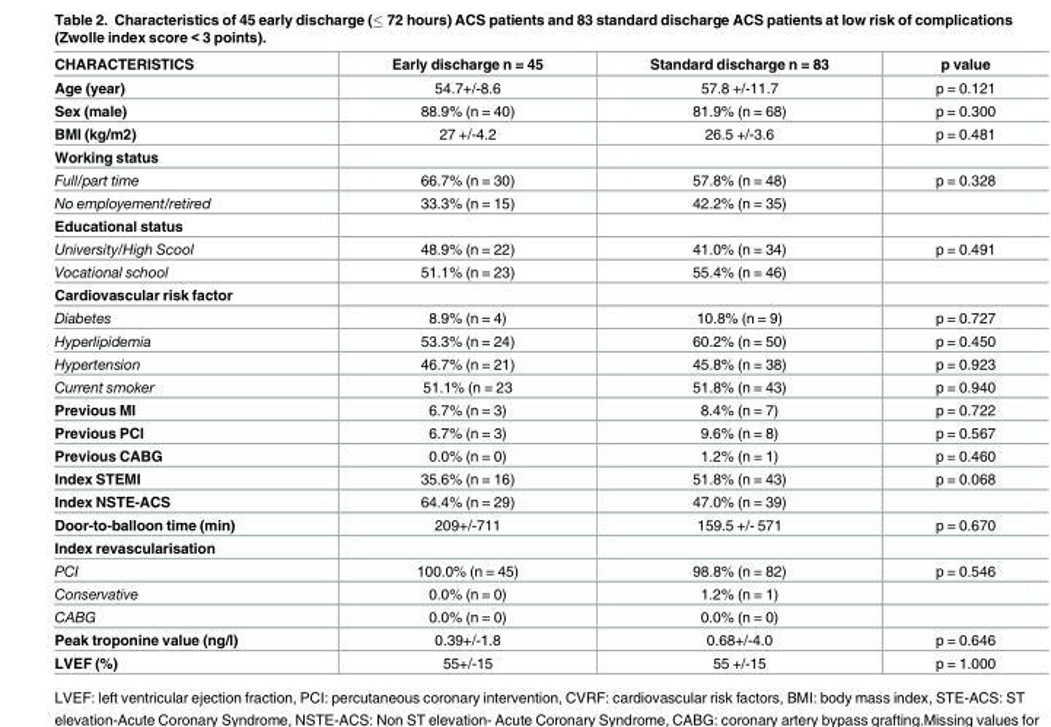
<table><thead><tr><td>CHARACTERISTICS</td><td>Early discharge n = 45</td><td>Standard discharge n = 83</td><td>p value</td></tr></thead><tbody><tr><td>Age (year)</td><td>54.7+/-8.6</td><td>57.8 +/-11.7</td><td>p = 0.121</td></tr><tr><td>Sex (male)</td><td>88.9% (n = 40)</td><td>81.9% (n = 68)</td><td>p = 0.300</td></tr><tr><td>BMI (kg/m2)</td><td>27 +/-4.2</td><td>26.5 +/-3.6</td><td>p = 0.481</td></tr><tr><td colspan="4">Working status</td></tr><tr><td>Full/part time</td><td>66.7% (n = 30)</td><td>57.8% (n = 48)</td><td>p = 0.328</td></tr><tr><td>No employement/retired</td><td>33.3% (n = 15)</td><td>42.2% (n = 35)</td><td></td></tr><tr><td colspan="4">Educational status</td></tr><tr><td>University/High Scool</td><td>48.9% (n = 22)</td><td>41.0% (n = 34)</td><td>p = 0.491</td></tr><tr><td>Vocational school</td><td>51.1% (n = 23)</td><td>55.4% (n = 46)</td><td></td></tr><tr><td colspan="4">Cardiovascular risk factor</td></tr><tr><td>Diabetes</td><td>8.9% (n = 4)</td><td>10.8% (n = 9)</td><td>p = 0.727</td></tr><tr><td>Hyperlipidemia</td><td>53.3% (n = 24)</td><td>60.2% (n = 50)</td><td>p = 0.450</td></tr><tr><td>Hypertension</td><td>46.7% (n = 21)</td><td>45.8% (n = 38)</td><td>p = 0.923</td></tr><tr><td>Current smoker</td><td>51.1% (n = 23</td><td>51.8% (n = 43)</td><td>p = 0.940</td></tr><tr><td>Previous MI</td><td>6.7% (n = 3)</td><td>8.4% (n = 7)</td><td>p = 0.722</td></tr><tr><td>Previous PCI</td><td>6.7% (n = 3)</td><td>9.6% (n = 8)</td><td>p = 0.567</td></tr><tr><td>Previous CABG</td><td>0.0% (n = 0)</td><td>1.2% (n = 1)</td><td>p = 0.460</td></tr><tr><td>Index STEMI</td><td>35.6% (n = 16)</td><td>51.8% (n = 43)</td><td>p = 0.068</td></tr><tr><td>Index NSTE-ACS</td><td>64.4% (n = 29)</td><td>47.0% (n = 39)</td><td></td></tr><tr><td>Door-to-balloon time (min)</td><td>209+/-711</td><td>159.5 +/- 571</td><td>p = 0.670</td></tr><tr><td colspan="4">Index revascularisation</td></tr><tr><td>PCI</td><td>100.0% (n = 45)</td><td>98.8% (n = 82)</td><td>p = 0.546</td></tr><tr><td>Conservative</td><td>0.0% (n = 0)</td><td>1.2% (n = 1)</td><td></td></tr><tr><td>CABG</td><td>0.0% (n = 0)</td><td>0.0% (n = 0)</td><td></td></tr><tr><td>Peak troponine value (ng/l)</td><td>0.39+/-1.8</td><td>0.68+/-4.0</td><td>p = 0.646</td></tr><tr><td>LVEF (%)</td><td>55+/-15</td><td>55 +/-15</td><td>p = 1.000</td></tr></tbody></table>